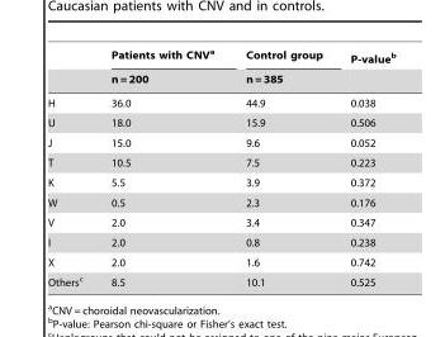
<table><thead><tr><td rowspan="2"></td><td rowspan="2">Patients with CNV<sup>a</sup> n = 200</td><td rowspan="2">Control group n = 385</td><td rowspan="2">P-value<sup>b</sup></td></tr><tr></tr></thead><tbody><tr><td>H</td><td>36.0</td><td>44.9</td><td>0.038</td></tr><tr><td>U</td><td>18.0</td><td>15.9</td><td>0.506</td></tr><tr><td>J</td><td>15.0</td><td>9.6</td><td>0.052</td></tr><tr><td>T</td><td>10.5</td><td>7.5</td><td>0.223</td></tr><tr><td>K</td><td>5.5</td><td>3.9</td><td>0.372</td></tr><tr><td>W</td><td>0.5</td><td>2.3</td><td>0.176</td></tr><tr><td>V</td><td>2.0</td><td>3.4</td><td>0.347</td></tr><tr><td>I</td><td>2.0</td><td>0.8</td><td>0.238</td></tr><tr><td>X</td><td>2.0</td><td>1.6</td><td>0.742</td></tr><tr><td>Others<sup>c</sup></td><td>8.5</td><td>10.1</td><td>0.525</td></tr></tbody></table>